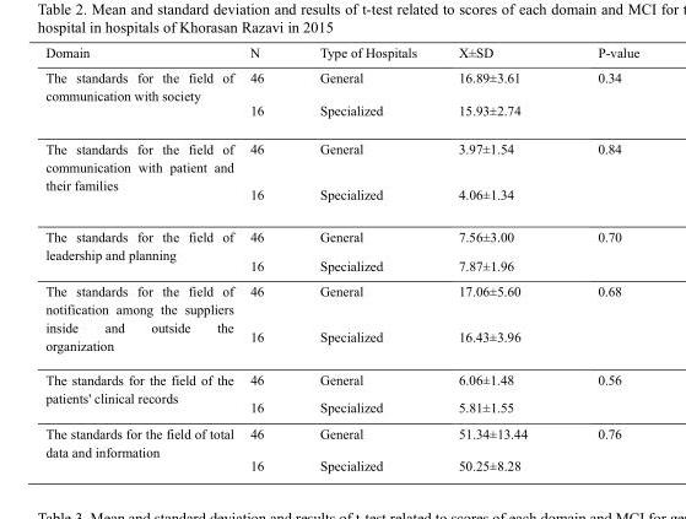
<table><thead><tr><td>Domain</td><td>N</td><td>Type of Hospitals</td><td>X±SD</td><td>P-value</td></tr></thead><tbody><tr><td rowspan="2">The standards for the field of communication with society</td><td>46</td><td>General</td><td>16.89±3.61</td><td rowspan="2">0.34</td></tr><tr><td>16</td><td>Specialized</td><td>15.93±2.74</td></tr><tr><td rowspan="2">The standards for the field of communication with patient and their families</td><td>46</td><td>General</td><td>3.97±1.54</td><td rowspan="2">0.84</td></tr><tr><td>16</td><td>Specialized</td><td>4.06±1.34</td></tr><tr><td rowspan="2">The standards for the field of leadership and planning</td><td>46</td><td>General</td><td>7.56±3.00</td><td rowspan="2">0.70</td></tr><tr><td>16</td><td>Specialized</td><td>7.87±1.96</td></tr><tr><td rowspan="2">The standards for the field of notification among the suppliers inside and outside the organization</td><td>46</td><td>General</td><td>17.06±5.60</td><td rowspan="2">0.68</td></tr><tr><td>16</td><td>Specialized</td><td>16.43±3.96</td></tr><tr><td rowspan="2">The standards for the field of the patients&#x27; clinical records</td><td>46</td><td>General</td><td>6.06±1.48</td><td rowspan="2">0.56</td></tr><tr><td>16</td><td>Specialized</td><td>5.81±1.55</td></tr><tr><td rowspan="2">The standards for the field of total data and information</td><td>46</td><td>General</td><td>51.34±13.44</td><td rowspan="2">0.76</td></tr><tr><td>16</td><td>Specialized</td><td>50.25±8.28</td></tr></tbody></table>